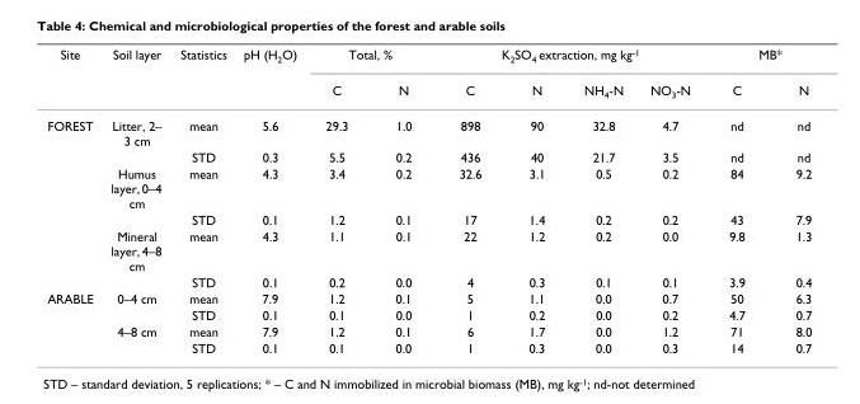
<table><thead><tr><td rowspan="2">Site</td><td rowspan="2">Soil layer</td><td rowspan="2">Statistics</td><td rowspan="2">pH (H<sub>2</sub>O)</td><td colspan="2">Total, %</td><td colspan="4">K<sub>2</sub>SO<sub>4</sub> extraction, mg kg<sup>-1</sup></td><td colspan="2">MB*</td></tr><tr><td>C</td><td>N</td><td>C</td><td>N</td><td>NH<sub>4</sub>-N</td><td>NO<sub>3</sub>-N</td><td>C</td><td>N</td></tr></thead><tbody><tr><td rowspan="6">FOREST</td><td>Litter, 2– 3 cm</td><td>mean</td><td>5.6</td><td>29.3</td><td>1.0</td><td>898</td><td>90</td><td>32.8</td><td>4.7</td><td>nd</td><td>nd</td></tr><tr><td></td><td>STD</td><td>0.3</td><td>5.5</td><td>0.2</td><td>436</td><td>40</td><td>21.7</td><td>3.5</td><td>nd</td><td>nd</td></tr><tr><td>Humus layer, 0–4 cm</td><td>mean</td><td>4.3</td><td>3.4</td><td>0.2</td><td>32.6</td><td>3.1</td><td>0.5</td><td>0.2</td><td>84</td><td>9.2</td></tr><tr><td></td><td>STD</td><td>0.1</td><td>1.2</td><td>0.1</td><td>17</td><td>1.4</td><td>0.2</td><td>0.2</td><td>43</td><td>7.9</td></tr><tr><td>Mineral layer, 4–8 cm</td><td>mean</td><td>4.3</td><td>1.1</td><td>0.1</td><td>22</td><td>1.2</td><td>0.2</td><td>0.0</td><td>9.8</td><td>1.3</td></tr><tr><td></td><td>STD</td><td>0.1</td><td>0.2</td><td>0.0</td><td>4</td><td>0.3</td><td>0.1</td><td>0.1</td><td>3.9</td><td>0.4</td></tr><tr><td rowspan="4">ARABLE</td><td>0–4 cm</td><td>mean</td><td>7.9</td><td>1.2</td><td>0.1</td><td>5</td><td>1.1</td><td>0.0</td><td>0.7</td><td>50</td><td>6.3</td></tr><tr><td></td><td>STD</td><td>0.1</td><td>0.1</td><td>0.0</td><td>1</td><td>0.2</td><td>0.0</td><td>0.2</td><td>4.7</td><td>0.7</td></tr><tr><td>4–8 cm</td><td>mean</td><td>7.9</td><td>1.2</td><td>0.1</td><td>6</td><td>1.7</td><td>0.0</td><td>1.2</td><td>71</td><td>8.0</td></tr><tr><td></td><td>STD</td><td>0.1</td><td>0.1</td><td>0.0</td><td>1</td><td>0.3</td><td>0.0</td><td>0.3</td><td>14</td><td>0.7</td></tr></tbody></table>